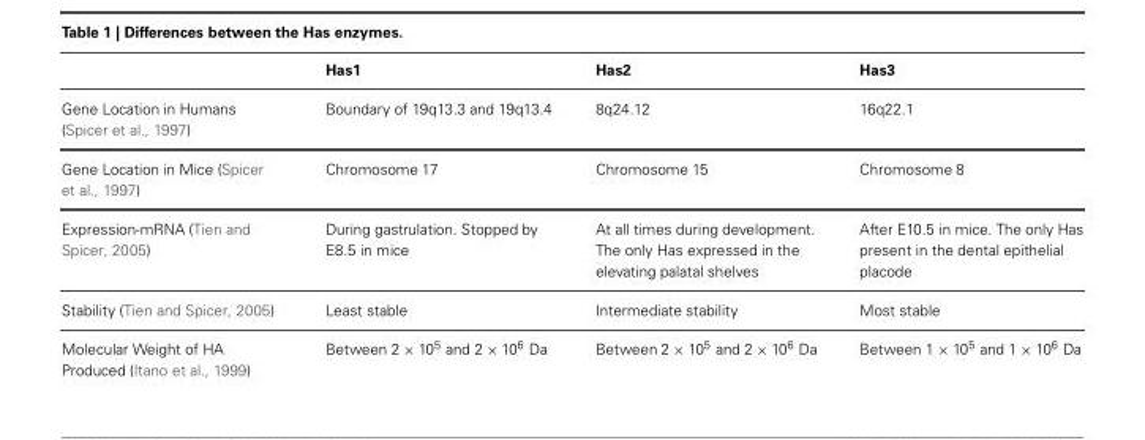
<table><thead><tr><td></td><td>Has1</td><td>Has2</td><td>Has3</td></tr></thead><tbody><tr><td>Gene Location in Humans (Spicer et al., 1997)</td><td>Boundary of 19q13.3 and 19q13.4</td><td>8q24.12</td><td>16q22.1</td></tr><tr><td>Gene Location in Mice (Spicer et al., 1997)</td><td>Chromosome 17</td><td>Chromosome 15</td><td>Chromosome 8</td></tr><tr><td>Expression-mRNA (Tien and Spicer, 2005)</td><td>During gastrulation. Stopped by E8.5 in mice</td><td>At all times during development. The only Has expressed in the elevating palatal shelves</td><td>After E10.5 in mice. The only Has present in the dental epithelial placode</td></tr><tr><td>Stability (Tien and Spicer, 2005)</td><td>Least stable</td><td>Intermediate stability</td><td>Most stable</td></tr><tr><td>Molecular Weight of HA Produced (Itano et al., 1999)</td><td>Between 2 × 10<sup>5</sup> and 2 × 10<sup>6</sup> Da</td><td>Between 2 × 10<sup>5</sup> and 2 × 10<sup>6</sup> Da</td><td>Between 1 × 10<sup>5</sup> and 1 × 10<sup>6</sup> Da</td></tr></tbody></table>